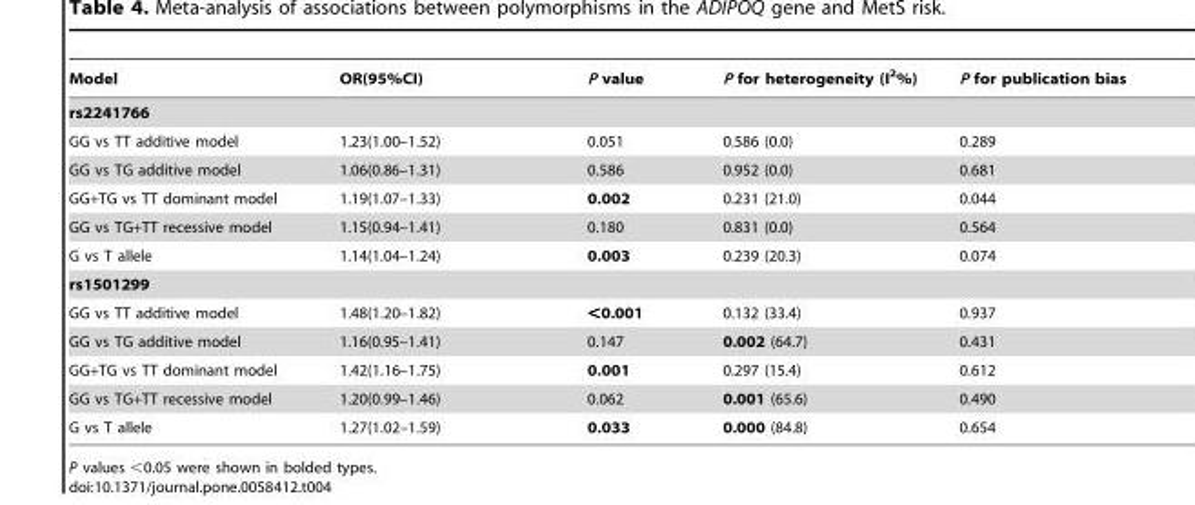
<table><thead><tr><td>Model</td><td>OR(95%CI)</td><td>P value</td><td>P for heterogeneity (I<sup>2</sup>%)</td><td>P for publication bias</td></tr></thead><tbody><tr><td colspan="5">rs2241766</td></tr><tr><td>GG vs TT additive model</td><td>1.23(1.00–1.52)</td><td>0.051</td><td>0.586 (0.0)</td><td>0.289</td></tr><tr><td>GG vs TG additive model</td><td>1.06(0.86–1.31)</td><td>0.586</td><td>0.952 (0.0)</td><td>0.681</td></tr><tr><td>GG+TG vs TT dominant model</td><td>1.19(1.07–1.33)</td><td>0.002</td><td>0.231 (21.0)</td><td>0.044</td></tr><tr><td>GG vs TG+TT recessive model</td><td>1.15(0.94–1.41)</td><td>0.180</td><td>0.831 (0.0)</td><td>0.564</td></tr><tr><td>G vs T allele</td><td>1.14(1.04–1.24)</td><td>0.003</td><td>0.239 (20.3)</td><td>0.074</td></tr><tr><td colspan="5">rs1501299</td></tr><tr><td>GG vs TT additive model</td><td>1.48(1.20–1.82)</td><td>&lt;0.001</td><td>0.132 (33.4)</td><td>0.937</td></tr><tr><td>GG vs TG additive model</td><td>1.16(0.95–1.41)</td><td>0.147</td><td>0.002 (64.7)</td><td>0.431</td></tr><tr><td>GG+TG vs TT dominant model</td><td>1.42(1.16–1.75)</td><td>0.001</td><td>0.297 (15.4)</td><td>0.612</td></tr><tr><td>GG vs TG+TT recessive model</td><td>1.20(0.99–1.46)</td><td>0.062</td><td>0.001 (65.6)</td><td>0.490</td></tr><tr><td>G vs T allele</td><td>1.27(1.02–1.59)</td><td>0.033</td><td>0.000 (84.8)</td><td>0.654</td></tr></tbody></table>